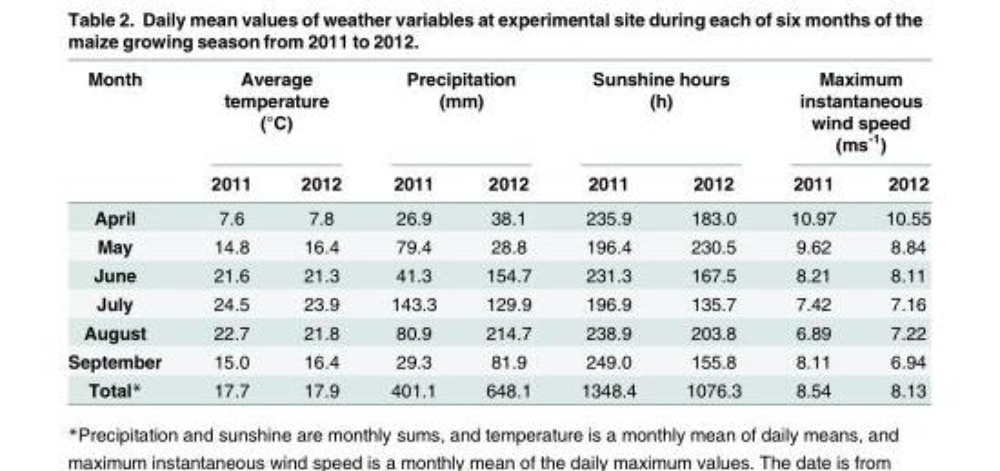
<table><thead><tr><td rowspan="2">Month</td><td colspan="2">Average temperature (°C)</td><td colspan="2">Precipitation (mm)</td><td colspan="2">Sunshine hours (h)</td><td colspan="2">Maximum instantaneous wind speed (ms<sup>-1</sup>)</td></tr><tr><td>2011</td><td>2012</td><td>2011</td><td>2012</td><td>2011</td><td>2012</td><td>2011</td><td>2012</td></tr></thead><tbody><tr><td>April</td><td>7.6</td><td>7.8</td><td>26.9</td><td>38.1</td><td>235.9</td><td>183.0</td><td>10.97</td><td>10.55</td></tr><tr><td>May</td><td>14.8</td><td>16.4</td><td>79.4</td><td>28.8</td><td>196.4</td><td>230.5</td><td>9.62</td><td>8.84</td></tr><tr><td>June</td><td>21.6</td><td>21.3</td><td>41.3</td><td>154.7</td><td>231.3</td><td>167.5</td><td>8.21</td><td>8.11</td></tr><tr><td>July</td><td>24.5</td><td>23.9</td><td>143.3</td><td>129.9</td><td>196.9</td><td>135.7</td><td>7.42</td><td>7.16</td></tr><tr><td>August</td><td>22.7</td><td>21.8</td><td>80.9</td><td>214.7</td><td>238.9</td><td>203.8</td><td>6.89</td><td>7.22</td></tr><tr><td>September</td><td>15.0</td><td>16.4</td><td>29.3</td><td>81.9</td><td>249.0</td><td>155.8</td><td>8.11</td><td>6.94</td></tr><tr><td>Total*</td><td>17.7</td><td>17.9</td><td>401.1</td><td>648.1</td><td>1348.4</td><td>1076.3</td><td>8.54</td><td>8.13</td></tr></tbody></table>